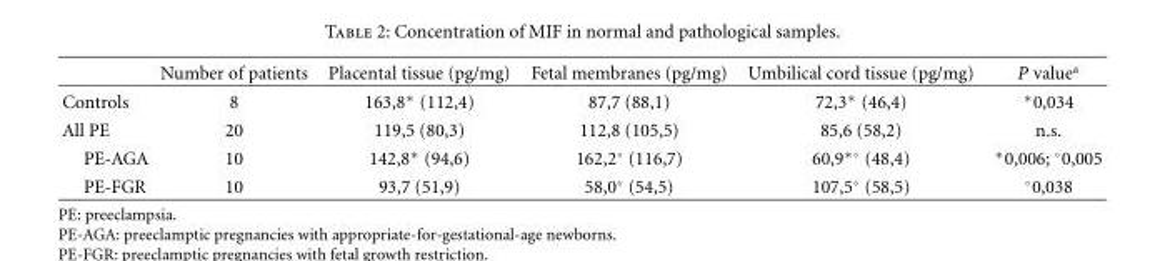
<table><thead><tr><td></td><td>Number of patients</td><td>Placental tissue (pg/mg)</td><td>Fetal membranes (pg/mg)</td><td>Umbilical cord tissue (pg/mg)</td><td>P value<sup>a</sup></td></tr></thead><tbody><tr><td>Controls</td><td>8</td><td>163,8∗ (112,4)</td><td>87,7 (88,1)</td><td>72,3∗ (46,4)</td><td>∗0,034</td></tr><tr><td>All PE</td><td>20</td><td>119,5 (80,3)</td><td>112,8 (105,5)</td><td>85,6 (58,2)</td><td>n.s.</td></tr><tr><td>PE-AGA</td><td>10</td><td>142,8∗ (94,6)</td><td>162,2◦ (116,7)</td><td>60,9∗◦ (48,4)</td><td>∗0,006; ◦0,005</td></tr><tr><td>PE-FGR</td><td>10</td><td>93,7 (51,9)</td><td>58,0◦ (54,5)</td><td>107,5◦ (58,5)</td><td>◦0,038</td></tr></tbody></table>